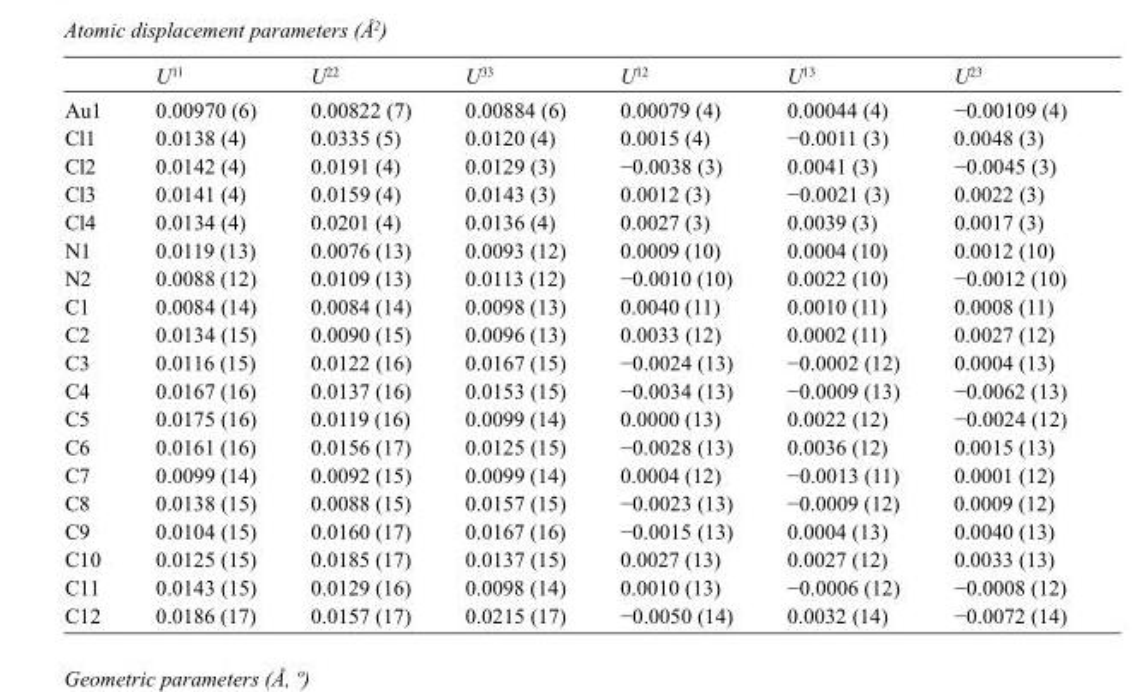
<table><thead><tr><td></td><td>U<sup>11</sup></td><td>U<sup>22</sup></td><td>U<sup>33</sup></td><td>U<sup>12</sup></td><td>U<sup>13</sup></td><td>U<sup>23</sup></td></tr></thead><tbody><tr><td>Au1</td><td>0.00970 (6)</td><td>0.00822 (7)</td><td>0.00884 (6)</td><td>0.00079 (4)</td><td>0.00044 (4)</td><td>−0.00109 (4)</td></tr><tr><td>Cl1</td><td>0.0138 (4)</td><td>0.0335 (5)</td><td>0.0120 (4)</td><td>0.0015 (4)</td><td>−0.0011 (3)</td><td>0.0048 (3)</td></tr><tr><td>Cl2</td><td>0.0142 (4)</td><td>0.0191 (4)</td><td>0.0129 (3)</td><td>−0.0038 (3)</td><td>0.0041 (3)</td><td>−0.0045 (3)</td></tr><tr><td>Cl3</td><td>0.0141 (4)</td><td>0.0159 (4)</td><td>0.0143 (3)</td><td>0.0012 (3)</td><td>−0.0021 (3)</td><td>0.0022 (3)</td></tr><tr><td>Cl4</td><td>0.0134 (4)</td><td>0.0201 (4)</td><td>0.0136 (4)</td><td>0.0027 (3)</td><td>0.0039 (3)</td><td>0.0017 (3)</td></tr><tr><td>N1</td><td>0.0119 (13)</td><td>0.0076 (13)</td><td>0.0093 (12)</td><td>0.0009 (10)</td><td>0.0004 (10)</td><td>0.0012 (10)</td></tr><tr><td>N2</td><td>0.0088 (12)</td><td>0.0109 (13)</td><td>0.0113 (12)</td><td>−0.0010 (10)</td><td>0.0022 (10)</td><td>−0.0012 (10)</td></tr><tr><td>C1</td><td>0.0084 (14)</td><td>0.0084 (14)</td><td>0.0098 (13)</td><td>0.0040 (11)</td><td>0.0010 (11)</td><td>0.0008 (11)</td></tr><tr><td>C2</td><td>0.0134 (15)</td><td>0.0090 (15)</td><td>0.0096 (13)</td><td>0.0033 (12)</td><td>0.0002 (11)</td><td>0.0027 (12)</td></tr><tr><td>C3</td><td>0.0116 (15)</td><td>0.0122 (16)</td><td>0.0167 (15)</td><td>−0.0024 (13)</td><td>−0.0002 (12)</td><td>0.0004 (13)</td></tr><tr><td>C4</td><td>0.0167 (16)</td><td>0.0137 (16)</td><td>0.0153 (15)</td><td>−0.0034 (13)</td><td>−0.0009 (13)</td><td>−0.0062 (13)</td></tr><tr><td>C5</td><td>0.0175 (16)</td><td>0.0119 (16)</td><td>0.0099 (14)</td><td>0.0000 (13)</td><td>0.0022 (12)</td><td>−0.0024 (12)</td></tr><tr><td>C6</td><td>0.0161 (16)</td><td>0.0156 (17)</td><td>0.0125 (15)</td><td>−0.0028 (13)</td><td>0.0036 (12)</td><td>0.0015 (13)</td></tr><tr><td>C7</td><td>0.0099 (14)</td><td>0.0092 (15)</td><td>0.0099 (14)</td><td>0.0004 (12)</td><td>−0.0013 (11)</td><td>0.0001 (12)</td></tr><tr><td>C8</td><td>0.0138 (15)</td><td>0.0088 (15)</td><td>0.0157 (15)</td><td>−0.0023 (13)</td><td>−0.0009 (12)</td><td>0.0009 (12)</td></tr><tr><td>C9</td><td>0.0104 (15)</td><td>0.0160 (17)</td><td>0.0167 (16)</td><td>−0.0015 (13)</td><td>0.0004 (13)</td><td>0.0040 (13)</td></tr><tr><td>C10</td><td>0.0125 (15)</td><td>0.0185 (17)</td><td>0.0137 (15)</td><td>0.0027 (13)</td><td>0.0027 (12)</td><td>0.0033 (13)</td></tr><tr><td>C11</td><td>0.0143 (15)</td><td>0.0129 (16)</td><td>0.0098 (14)</td><td>0.0010 (13)</td><td>−0.0006 (12)</td><td>−0.0008 (12)</td></tr><tr><td>C12</td><td>0.0186 (17)</td><td>0.0157 (17)</td><td>0.0215 (17)</td><td>−0.0050 (14)</td><td>0.0032 (14)</td><td>−0.0072 (14)</td></tr></tbody></table>